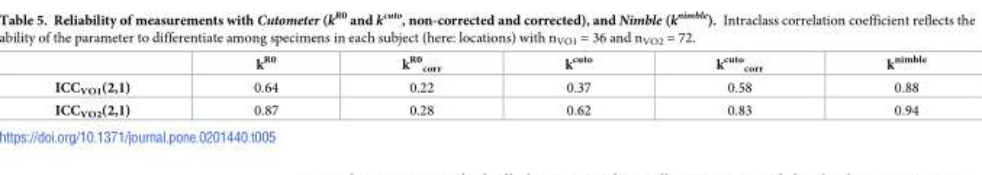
<table><thead><tr><td></td><td>k<sup>R0</sup></td><td>k<sup>R0</sup> <sub>corr</sub></td><td>k<sup>cuto</sup></td><td>k<sup>cuto</sup> <sub>corr</sub></td><td>k<sup>nimble</sup></td></tr></thead><tbody><tr><td>ICC<sub>VO1</sub>(2,1)</td><td>0.64</td><td>0.22</td><td>0.37</td><td>0.58</td><td>0.88</td></tr><tr><td>ICC<sub>VO2</sub>(2,1)</td><td>0.87</td><td>0.28</td><td>0.62</td><td>0.83</td><td>0.94</td></tr></tbody></table>